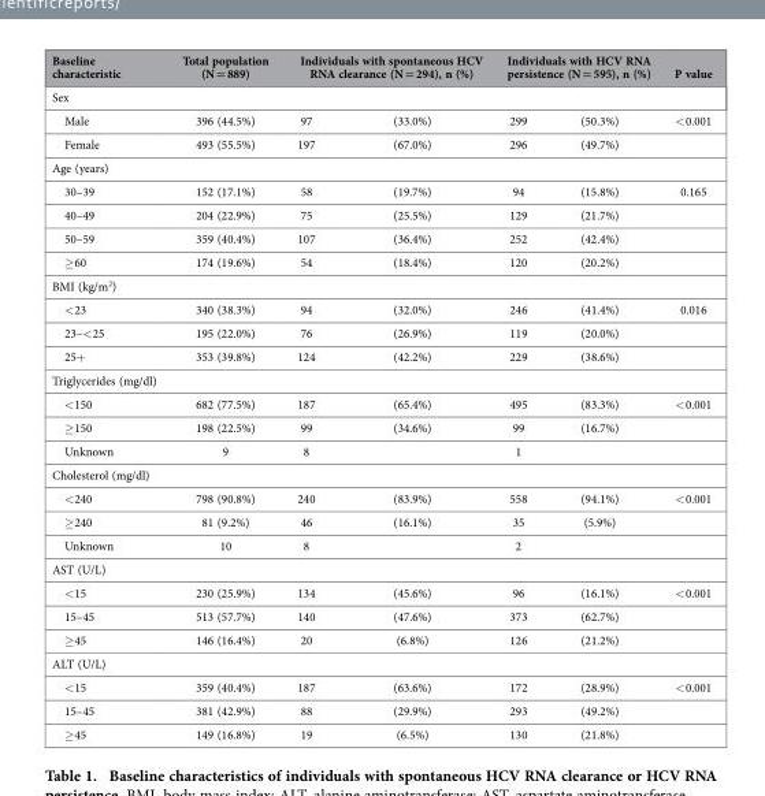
<table><thead><tr><td>Baseline characteristic</td><td>Total population (N = 889)</td><td colspan="2">Individuals with spontaneous HCV RNA clearance (N = 294), n (%)</td><td colspan="2">Individuals with HCV RNA persistence (N = 595), n (%)</td><td>P value</td></tr><tr><td colspan="7">Sex</td></tr><tr><td>Male</td><td>396 (44.5%)</td><td>97</td><td>(33.0%)</td><td>299</td><td>(50.3%)</td><td>&lt; 0.001</td></tr></thead><tbody><tr><td>Female</td><td>493 (55.5%)</td><td>197</td><td>(67.0%)</td><td>296</td><td>(49.7%)</td><td></td></tr><tr><td colspan="7">Age (years)</td></tr><tr><td>30–39</td><td>152 (17.1%)</td><td>58</td><td>(19.7%)</td><td>94</td><td>(15.8%)</td><td>0.165</td></tr><tr><td>40–49</td><td>204 (22.9%)</td><td>75</td><td>(25.5%)</td><td>129</td><td>(21.7%)</td><td></td></tr><tr><td>50–59</td><td>359 (40.4%)</td><td>107</td><td>(36.4%)</td><td>252</td><td>(42.4%)</td><td></td></tr><tr><td>≥ 60</td><td>174 (19.6%)</td><td>54</td><td>(18.4%)</td><td>120</td><td>(20.2%)</td><td></td></tr><tr><td colspan="7">BMI (kg/m<sup>2</sup>)</td></tr><tr><td>&lt; 23</td><td>340 (38.3%)</td><td>94</td><td>(32.0%)</td><td>246</td><td>(41.4%)</td><td>0.016</td></tr><tr><td>23–&lt; 25</td><td>195 (22.0%)</td><td>76</td><td>(26.9%)</td><td>119</td><td>(20.0%)</td><td></td></tr><tr><td>25+</td><td>353 (39.8%)</td><td>124</td><td>(42.2%)</td><td>229</td><td>(38.6%)</td><td></td></tr><tr><td colspan="7">Triglycerides (mg/dl)</td></tr><tr><td>&lt; 150</td><td>682 (77.5%)</td><td>187</td><td>(65.4%)</td><td>495</td><td>(83.3%)</td><td>&lt; 0.001</td></tr><tr><td>≥ 150</td><td>198 (22.5%)</td><td>99</td><td>(34.6%)</td><td>99</td><td>(16.7%)</td><td></td></tr><tr><td>Unknown</td><td>9</td><td>8</td><td></td><td>1</td><td></td><td></td></tr><tr><td colspan="7">Cholesterol (mg/dl)</td></tr><tr><td>&lt; 240</td><td>798 (90.8%)</td><td>240</td><td>(83.9%)</td><td>558</td><td>(94.1%)</td><td>&lt; 0.001</td></tr><tr><td>≥ 240</td><td>81 (9.2%)</td><td>46</td><td>(16.1%)</td><td>35</td><td>(5.9%)</td><td></td></tr><tr><td>Unknown</td><td>10</td><td>8</td><td></td><td>2</td><td></td><td></td></tr><tr><td colspan="7">AST (U/L)</td></tr><tr><td>&lt; 15</td><td>230 (25.9%)</td><td>134</td><td>(45.6%)</td><td>96</td><td>(16.1%)</td><td>&lt; 0.001</td></tr><tr><td>15–45</td><td>513 (57.7%)</td><td>140</td><td>(47.6%)</td><td>373</td><td>(62.7%)</td><td></td></tr><tr><td>≥ 45</td><td>146 (16.4%)</td><td>20</td><td>(6.8%)</td><td>126</td><td>(21.2%)</td><td></td></tr><tr><td colspan="7">ALT (U/L)</td></tr><tr><td>&lt; 15</td><td>359 (40.4%)</td><td>187</td><td>(63.6%)</td><td>172</td><td>(28.9%)</td><td>&lt; 0.001</td></tr><tr><td>15–45</td><td>381 (42.9%)</td><td>88</td><td>(29.9%)</td><td>293</td><td>(49.2%)</td><td></td></tr><tr><td>≥ 45</td><td>149 (16.8%)</td><td>19</td><td>(6.5%)</td><td>130</td><td>(21.8%)</td><td></td></tr></tbody></table>